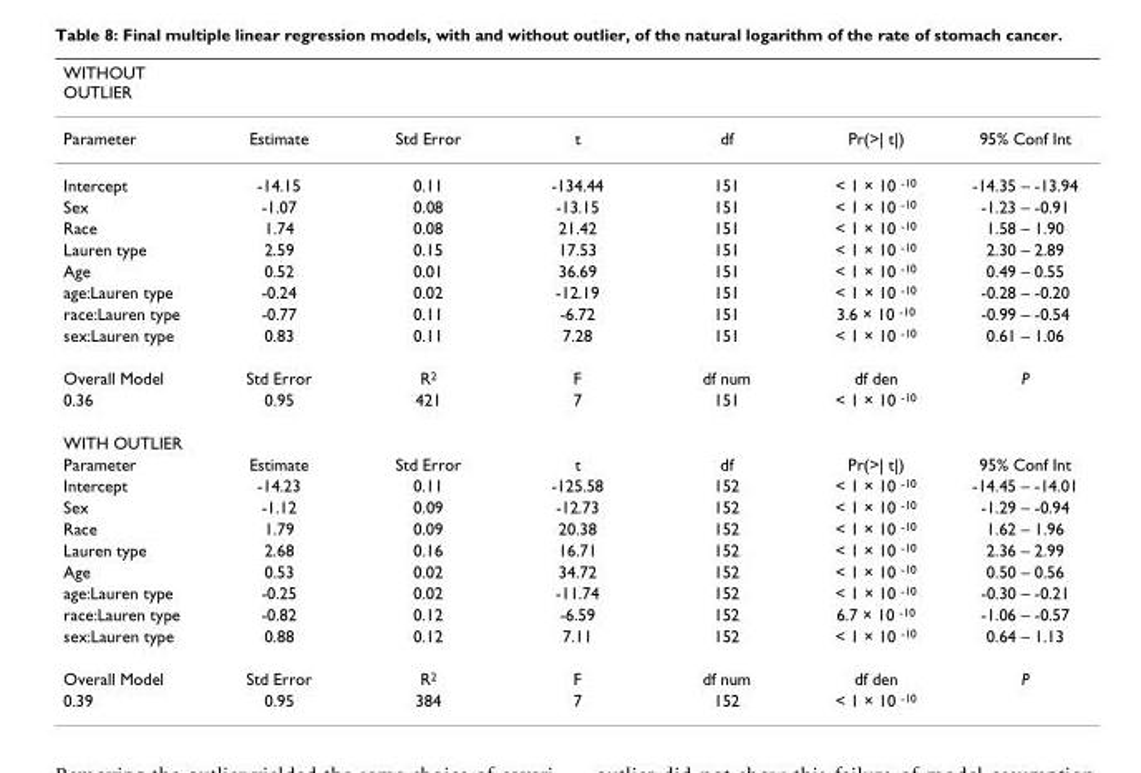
<table><thead><tr><td>WITHOUT OUTLIER</td><td></td><td></td><td></td><td></td><td></td><td></td></tr></thead><tbody><tr><td>Parameter</td><td>Estimate</td><td>Std Error</td><td>t</td><td>df</td><td>Pr(&gt;| t|)</td><td>95% Conf Int</td></tr><tr><td>Intercept</td><td>-14.15</td><td>0.11</td><td>-134.44</td><td>151</td><td>&lt; 1 × 10 -10</td><td>-14.35 – -13.94</td></tr><tr><td>Sex</td><td>-1.07</td><td>0.08</td><td>-13.15</td><td>151</td><td>&lt; 1 × 10 -10</td><td>-1.23 – -0.91</td></tr><tr><td>Race</td><td>1.74</td><td>0.08</td><td>21.42</td><td>151</td><td>&lt; 1 × 10 -10</td><td>1.58 – 1.90</td></tr><tr><td>Lauren type</td><td>2.59</td><td>0.15</td><td>17.53</td><td>151</td><td>&lt; 1 × 10 -10</td><td>2.30 – 2.89</td></tr><tr><td>Age</td><td>0.52</td><td>0.01</td><td>36.69</td><td>151</td><td>&lt; 1 × 10 -10</td><td>0.49 – 0.55</td></tr><tr><td>age:Lauren type</td><td>-0.24</td><td>0.02</td><td>-12.19</td><td>151</td><td>&lt; 1 × 10 -10</td><td>-0.28 – -0.20</td></tr><tr><td>race:Lauren type</td><td>-0.77</td><td>0.11</td><td>-6.72</td><td>151</td><td>3.6 × 10 -10</td><td>-0.99 – -0.54</td></tr><tr><td>sex:Lauren type</td><td>0.83</td><td>0.11</td><td>7.28</td><td>151</td><td>&lt; 1 × 10 -10</td><td>0.61 – 1.06</td></tr><tr><td>Overall Model</td><td>Std Error</td><td>R2</td><td>F</td><td>df num</td><td>df den</td><td>P</td></tr><tr><td>0.36</td><td>0.95</td><td>421</td><td>7</td><td>151</td><td>&lt; 1 × 10 -10</td><td></td></tr><tr><td colspan="7">WITH OUTLIER</td></tr><tr><td>Parameter</td><td>Estimate</td><td>Std Error</td><td>t</td><td>df</td><td>Pr(&gt;| t|)</td><td>95% Conf Int</td></tr><tr><td>Intercept</td><td>-14.23</td><td>0.11</td><td>-125.58</td><td>152</td><td>&lt; 1 × 10 -10</td><td>-14.45 – -14.01</td></tr><tr><td>Sex</td><td>-1.12</td><td>0.09</td><td>-12.73</td><td>152</td><td>&lt; 1 × 10 -10</td><td>-1.29 – -0.94</td></tr><tr><td>Race</td><td>1.79</td><td>0.09</td><td>20.38</td><td>152</td><td>&lt; 1 × 10 -10</td><td>1.62 – 1.96</td></tr><tr><td>Lauren type</td><td>2.68</td><td>0.16</td><td>16.71</td><td>152</td><td>&lt; 1 × 10 -10</td><td>2.36 – 2.99</td></tr><tr><td>Age</td><td>0.53</td><td>0.02</td><td>34.72</td><td>152</td><td>&lt; 1 × 10 -10</td><td>0.50 – 0.56</td></tr><tr><td>age:Lauren type</td><td>-0.25</td><td>0.02</td><td>-11.74</td><td>152</td><td>&lt; 1 × 10 -10</td><td>-0.30 – -0.21</td></tr><tr><td>race:Lauren type</td><td>-0.82</td><td>0.12</td><td>-6.59</td><td>152</td><td>6.7 × 10 -10</td><td>-1.06 – -0.57</td></tr><tr><td>sex:Lauren type</td><td>0.88</td><td>0.12</td><td>7.11</td><td>152</td><td>&lt; 1 × 10 -10</td><td>0.64 – 1.13</td></tr><tr><td>Overall Model</td><td>Std Error</td><td>R2</td><td>F</td><td>df num</td><td>df den</td><td>P</td></tr><tr><td>0.39</td><td>0.95</td><td>384</td><td>7</td><td>152</td><td>&lt; 1 × 10 -10</td><td></td></tr></tbody></table>